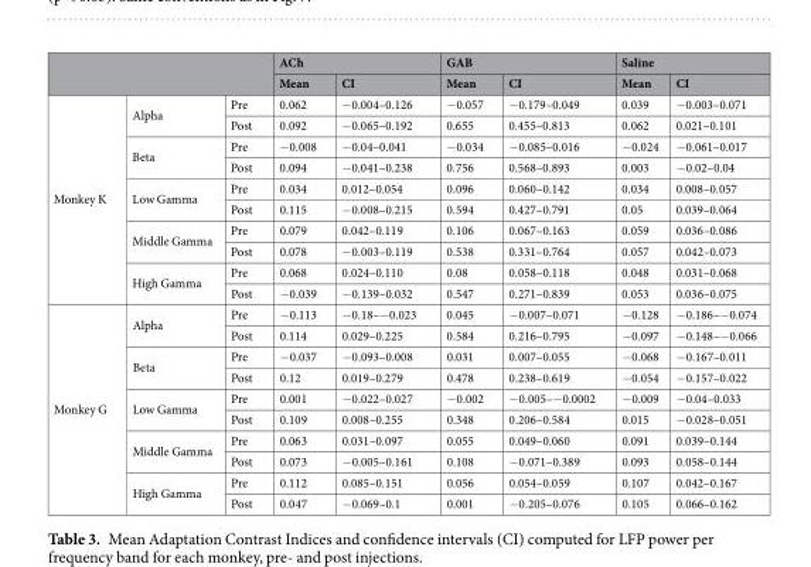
<table><thead><tr><td rowspan="2"></td><td rowspan="2"></td><td rowspan="2"></td><td colspan="2">ACh</td><td colspan="2">GAB</td><td colspan="2">Saline</td></tr><tr><td>Mean</td><td>CI</td><td>Mean</td><td>CI</td><td>Mean</td><td>CI</td></tr></thead><tbody><tr><td rowspan="10">Monkey K</td><td rowspan="2">Alpha</td><td>Pre</td><td>0.062</td><td>−0.004–0.126</td><td>−0.057</td><td>−0.179–0.049</td><td>0.039</td><td>−0.003–0.071</td></tr><tr><td>Post</td><td>0.092</td><td>−0.065–0.192</td><td>0.655</td><td>0.455–0.813</td><td>0.062</td><td>0.021–0.101</td></tr><tr><td rowspan="2">Beta</td><td>Pre</td><td>−0.008</td><td>−0.04–0.041</td><td>−0.034</td><td>−0.085–0.016</td><td>−0.024</td><td>−0.061–0.017</td></tr><tr><td>Post</td><td>0.094</td><td>−0.041–0.238</td><td>0.756</td><td>0.568–0.893</td><td>0.003</td><td>−0.02–0.04</td></tr><tr><td rowspan="2">Low Gamma</td><td>Pre</td><td>0.034</td><td>0.012–0.054</td><td>0.096</td><td>0.060–0.142</td><td>0.034</td><td>0.008–0.057</td></tr><tr><td>Post</td><td>0.115</td><td>−0.008–0.215</td><td>0.594</td><td>0.427–0.791</td><td>0.05</td><td>0.039–0.064</td></tr><tr><td rowspan="2">Middle Gamma</td><td>Pre</td><td>0.079</td><td>0.042–0.119</td><td>0.106</td><td>0.067–0.163</td><td>0.059</td><td>0.036–0.086</td></tr><tr><td>Post</td><td>0.078</td><td>−0.003–0.119</td><td>0.538</td><td>0.331–0.764</td><td>0.057</td><td>0.042–0.073</td></tr><tr><td rowspan="2">High Gamma</td><td>Pre</td><td>0.068</td><td>0.024–0.110</td><td>0.08</td><td>0.058–0.118</td><td>0.048</td><td>0.031–0.068</td></tr><tr><td>Post</td><td>−0.039</td><td>−0.139–0.032</td><td>0.547</td><td>0.271–0.839</td><td>0.053</td><td>0.036–0.075</td></tr><tr><td rowspan="10">Monkey G</td><td rowspan="2">Alpha</td><td>Pre</td><td>−0.113</td><td>−0.18–−0.023</td><td>0.045</td><td>−0.007–0.071</td><td>−0.128</td><td>−0.186–−0.074</td></tr><tr><td>Post</td><td>0.114</td><td>0.029–0.225</td><td>0.584</td><td>0.216–0.795</td><td>−0.097</td><td>−0.148–−0.066</td></tr><tr><td rowspan="2">Beta</td><td>Pre</td><td>−0.037</td><td>−0.093–0.008</td><td>0.031</td><td>0.007–0.055</td><td>−0.068</td><td>−0.167–0.011</td></tr><tr><td>Post</td><td>0.12</td><td>0.019–0.279</td><td>0.478</td><td>0.238–0.619</td><td>−0.054</td><td>−0.157–0.022</td></tr><tr><td rowspan="2">Low Gamma</td><td>Pre</td><td>0.001</td><td>−0.022–0.027</td><td>−0.002</td><td>−0.005–−0.0002</td><td>−0.009</td><td>−0.04–0.033</td></tr><tr><td>Post</td><td>0.109</td><td>0.008–0.255</td><td>0.348</td><td>0.206–0.584</td><td>0.015</td><td>−0.028–0.051</td></tr><tr><td rowspan="2">Middle Gamma</td><td>Pre</td><td>0.063</td><td>0.031–0.097</td><td>0.055</td><td>0.049–0.060</td><td>0.091</td><td>0.039–0.144</td></tr><tr><td>Post</td><td>0.073</td><td>−0.005–0.161</td><td>0.108</td><td>−0.071–0.389</td><td>0.093</td><td>0.058–0.144</td></tr><tr><td rowspan="2">High Gamma</td><td>Pre</td><td>0.112</td><td>0.085–0.151</td><td>0.056</td><td>0.054–0.059</td><td>0.107</td><td>0.042–0.167</td></tr><tr><td>Post</td><td>0.047</td><td>−0.069–0.1</td><td>0.001</td><td>−0.205–0.076</td><td>0.105</td><td>0.066–0.162</td></tr></tbody></table>